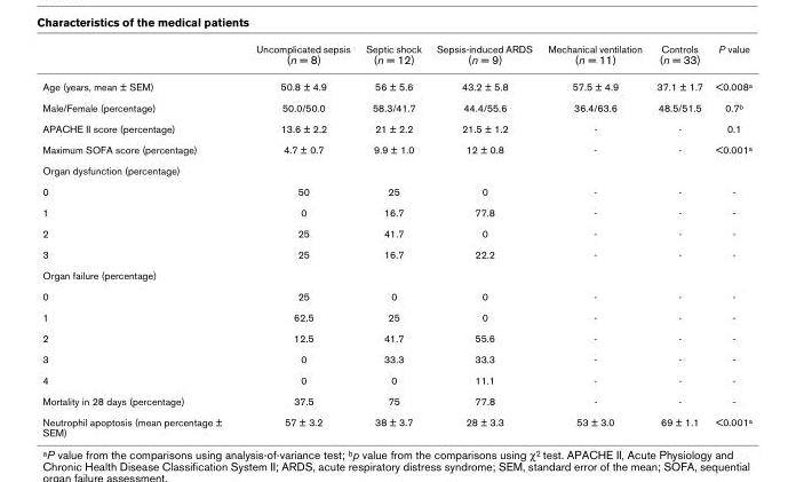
<table><thead><tr><td></td><td>Uncomplicated sepsis (n = 8)</td><td>Septic shock (n = 12)</td><td>Sepsis-induced ARDS (n = 9)</td><td>Mechanical ventilation (n = 11)</td><td>Controls (n = 33)</td><td>P value</td></tr></thead><tbody><tr><td>Age (years, mean ± SEM)</td><td>50.8 ± 4.9</td><td>56 ± 5.6</td><td>43.2 ± 5.8</td><td>57.5 ± 4.9</td><td>37.1 ± 1.7</td><td>&lt;0.008a</td></tr><tr><td>Male/Female (percentage)</td><td>50.0/50.0</td><td>58.3/41.7</td><td>44.4/55.6</td><td>36.4/63.6</td><td>48.5/51.5</td><td>0.7b</td></tr><tr><td>APACHE II score (percentage)</td><td>13.6 ± 2.2</td><td>21 ± 2.2</td><td>21.5 ± 1.2</td><td>-</td><td>-</td><td>0.1</td></tr><tr><td>Maximum SOFA score (percentage)</td><td>4.7 ± 0.7</td><td>9.9 ± 1.0</td><td>12 ± 0.8</td><td>-</td><td>-</td><td>&lt;0.001a</td></tr><tr><td colspan="7">Organ dysfunction (percentage)</td></tr><tr><td>0</td><td>50</td><td>25</td><td>0</td><td>-</td><td>-</td><td>-</td></tr><tr><td>1</td><td>0</td><td>16.7</td><td>77.8</td><td>-</td><td>-</td><td>-</td></tr><tr><td>2</td><td>25</td><td>41.7</td><td>0</td><td>-</td><td>-</td><td>-</td></tr><tr><td>3</td><td>25</td><td>16.7</td><td>22.2</td><td>-</td><td>-</td><td>-</td></tr><tr><td colspan="7">Organ failure (percentage)</td></tr><tr><td>0</td><td>25</td><td>0</td><td>0</td><td>-</td><td>-</td><td>-</td></tr><tr><td>1</td><td>62.5</td><td>25</td><td>0</td><td>-</td><td>-</td><td>-</td></tr><tr><td>2</td><td>12.5</td><td>41.7</td><td>55.6</td><td>-</td><td>-</td><td>-</td></tr><tr><td>3</td><td>0</td><td>33.3</td><td>33.3</td><td>-</td><td>-</td><td>-</td></tr><tr><td>4</td><td>0</td><td>0</td><td>11.1</td><td>-</td><td>-</td><td>-</td></tr><tr><td>Mortality in 28 days (percentage)</td><td>37.5</td><td>75</td><td>77.8</td><td>-</td><td>-</td><td>-</td></tr><tr><td>Neutrophil apoptosis (mean percentage ± SEM)</td><td>57 ± 3.2</td><td>38 ± 3.7</td><td>28 ± 3.3</td><td>53 ± 3.0</td><td>69 ± 1.1</td><td>&lt;0.001a</td></tr></tbody></table>